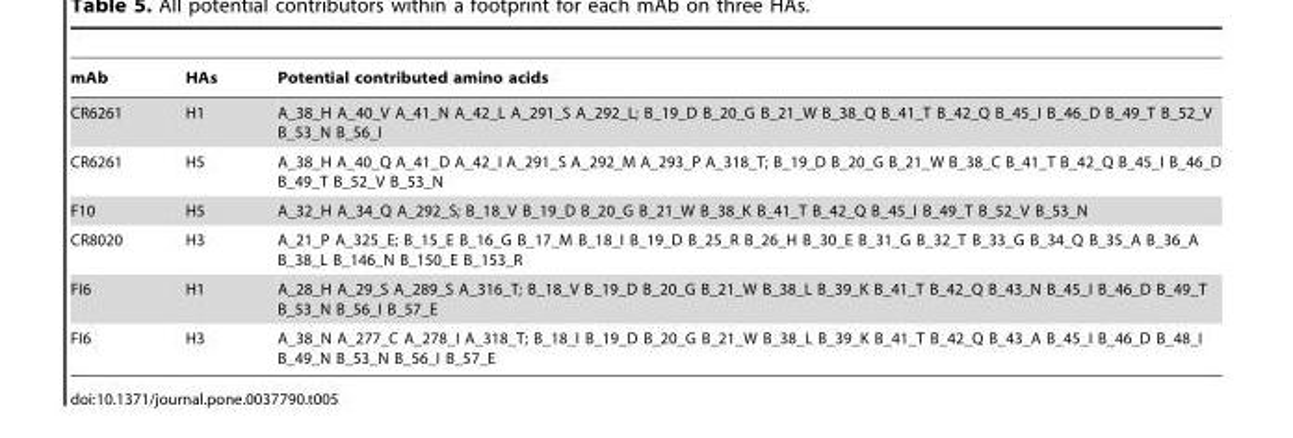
<table><thead><tr><td>mAb</td><td>HAs</td><td>Potential contributed amino acids</td></tr></thead><tbody><tr><td>CR6261</td><td>H1</td><td>A_38_H A_40_V A_41_N A_42_L A_291_S A_292_L; B_19_D B_20_G B_21_W B_38_Q B_41_T B_42_Q B_45_I B_46_D B_49_T B_52_V B_53_N B_56_I</td></tr><tr><td>CR6261</td><td>H5</td><td>A_38_H A_40_Q A_41_D A_42_I A_291_S A_292_M A_293_P A_318_T; B_19_D B_20_G B_21_W B_38_C B_41_T B_42_Q B_45_I B_46_D B_49_T B_52_V B_53_N</td></tr><tr><td>F10</td><td>H5</td><td>A_32_H A_34_Q A_292_S; B_18_V B_19_D B_20_G B_21_W B_38_K B_41_T B_42_Q B_45_I B_49_T B_52_V B_53_N</td></tr><tr><td>CR8020</td><td>H3</td><td>A_21_P A_325_E; B_15_E B_16_G B_17_M B_18_I B_19_D B_25_R B_26_H B_30_E B_31_G B_32_T B_33_G B_34_Q B_35_A B_36_A B_38_L B_146_N B_150_E B_153_R</td></tr><tr><td>FI6</td><td>H1</td><td>A_28_H A_29_S A_289_S A_316_T; B_18_V B_19_D B_20_G B_21_W B_38_L B_39_K B_41_T B_42_Q B_43_N B_45_I B_46_D B_49_T B_53_N B_56_I B_57_E</td></tr><tr><td>FI6</td><td>H3</td><td>A_38_N A_277_C A_278_I A_318_T; B_18_I B_19_D B_20_G B_21_W B_38_L B_39_K B_41_T B_42_Q B_43_A B_45_I B_46_D B_48_I B_49_N B_53_N B_56_I B_57_E</td></tr></tbody></table>